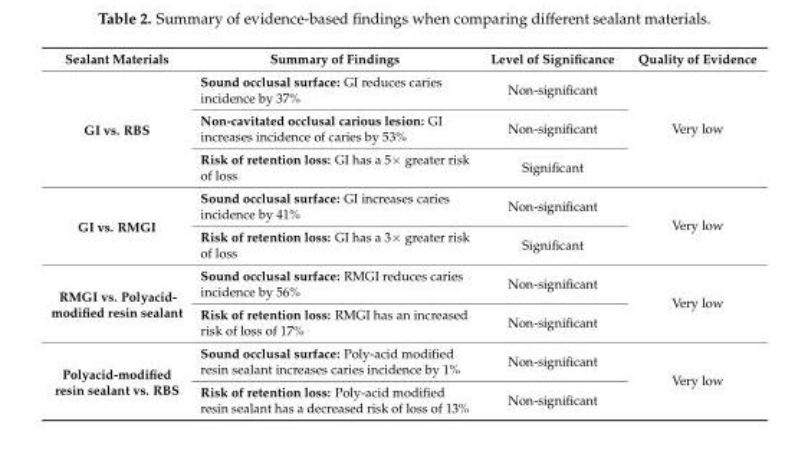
<table><thead><tr><td>Sealant Materials</td><td>Summary of Findings</td><td>Level of Significance</td><td>Quality of Evidence</td></tr></thead><tbody><tr><td rowspan="3">GI vs. RBS</td><td>Sound occlusal surface: GI reduces caries incidence by 37%</td><td>Non-significant</td><td rowspan="3">Very low</td></tr><tr><td>Non-cavitated occlusal carious lesion: GI increases incidence of caries by 53%</td><td>Non-significant</td></tr><tr><td>Risk of retention loss: GI has a 5× greater risk of loss</td><td>Significant</td></tr><tr><td rowspan="2">GI vs. RMGI</td><td>Sound occlusal surface: GI increases caries incidence by 41%</td><td>Non-significant</td><td rowspan="2">Very low</td></tr><tr><td>Risk of retention loss: GI has a 3× greater risk of loss</td><td>Significant</td></tr><tr><td rowspan="2">RMGI vs. Polyacid- modified resin sealant</td><td>Sound occlusal surface: RMGI reduces caries incidence by 56%</td><td>Non-significant</td><td rowspan="2">Very low</td></tr><tr><td>Risk of retention loss: RMGI has an increased risk of loss of 17%</td><td>Non-significant</td></tr><tr><td rowspan="2">Polyacid-modified resin sealant vs. RBS</td><td>Sound occlusal surface: Poly-acid modified resin sealant increases caries incidence by 1%</td><td>Non-significant</td><td rowspan="2">Very low</td></tr><tr><td>Risk of retention loss: Poly-acid modified resin sealant has a decreased risk of loss of 13%</td><td>Non-significant</td></tr></tbody></table>